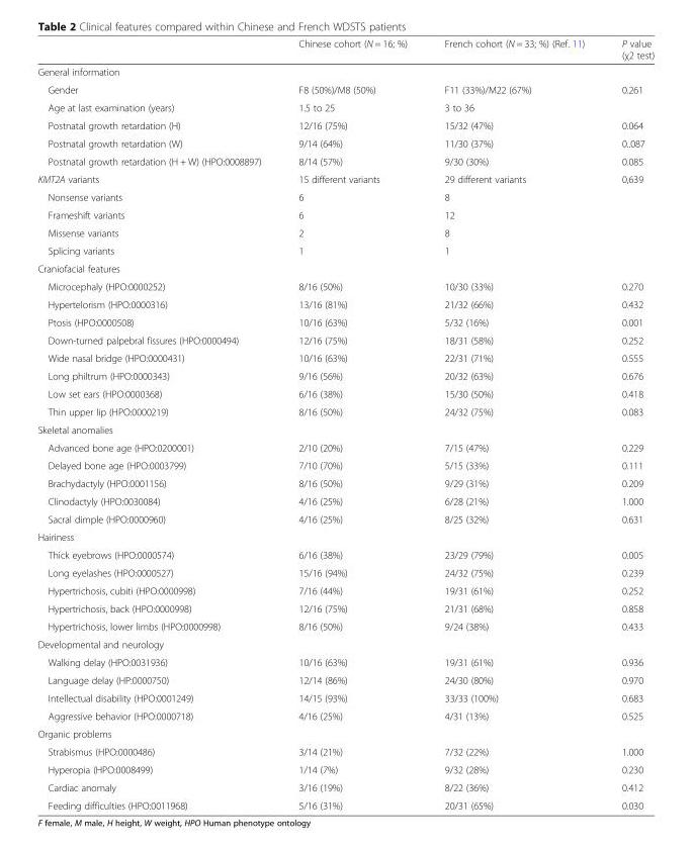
<table><thead><tr><td></td><td>Chinese cohort (N = 16; %)</td><td>French cohort (N = 33; %) (Ref. 11)</td><td>P value (χ2 test)</td></tr></thead><tbody><tr><td colspan="4">General information</td></tr><tr><td>Gender</td><td>F8 (50%)/M8 (50%)</td><td>F11 (33%)/M22 (67%)</td><td>0.261</td></tr><tr><td>Age at last examination (years)</td><td>1.5 to 25</td><td>3 to 36</td><td></td></tr><tr><td>Postnatal growth retardation (H)</td><td>12/16 (75%)</td><td>15/32 (47%)</td><td>0.064</td></tr><tr><td>Postnatal growth retardation (W)</td><td>9/14 (64%)</td><td>11/30 (37%)</td><td>0..087</td></tr><tr><td>Postnatal growth retardation (H + W) (HPO:0008897)</td><td>8/14 (57%)</td><td>9/30 (30%)</td><td>0.085</td></tr><tr><td>KMT2A variants</td><td>15 different variants</td><td>29 different variants</td><td>0,639</td></tr><tr><td>Nonsense variants</td><td>6</td><td>8</td><td></td></tr><tr><td>Frameshift variants</td><td>6</td><td>12</td><td></td></tr><tr><td>Missense variants</td><td>2</td><td>8</td><td></td></tr><tr><td>Splicing variants</td><td>1</td><td>1</td><td></td></tr><tr><td colspan="4">Craniofacial features</td></tr><tr><td>Microcephaly (HPO:0000252)</td><td>8/16 (50%)</td><td>10/30 (33%)</td><td>0.270</td></tr><tr><td>Hypertelorism (HPO:0000316)</td><td>13/16 (81%)</td><td>21/32 (66%)</td><td>0.432</td></tr><tr><td>Ptosis (HPO:0000508)</td><td>10/16 (63%)</td><td>5/32 (16%)</td><td>0.001</td></tr><tr><td>Down-turned palpebral fissures (HPO:0000494)</td><td>12/16 (75%)</td><td>18/31 (58%)</td><td>0.252</td></tr><tr><td>Wide nasal bridge (HPO:0000431)</td><td>10/16 (63%)</td><td>22/31 (71%)</td><td>0.555</td></tr><tr><td>Long philtrum (HPO:0000343)</td><td>9/16 (56%)</td><td>20/32 (63%)</td><td>0.676</td></tr><tr><td>Low set ears (HPO:0000368)</td><td>6/16 (38%)</td><td>15/30 (50%)</td><td>0.418</td></tr><tr><td>Thin upper lip (HPO:0000219)</td><td>8/16 (50%)</td><td>24/32 (75%)</td><td>0.083</td></tr><tr><td colspan="4">Skeletal anomalies</td></tr><tr><td>Advanced bone age (HPO:0200001)</td><td>2/10 (20%)</td><td>7/15 (47%)</td><td>0.229</td></tr><tr><td>Delayed bone age (HPO:0003799)</td><td>7/10 (70%)</td><td>5/15 (33%)</td><td>0.111</td></tr><tr><td>Brachydactyly (HPO:0001156)</td><td>8/16 (50%)</td><td>9/29 (31%)</td><td>0.209</td></tr><tr><td>Clinodactyly (HPO:0030084)</td><td>4/16 (25%)</td><td>6/28 (21%)</td><td>1.000</td></tr><tr><td>Sacral dimple (HPO:0000960)</td><td>4/16 (25%)</td><td>8/25 (32%)</td><td>0.631</td></tr><tr><td colspan="4">Hairiness</td></tr><tr><td>Thick eyebrows (HPO:0000574)</td><td>6/16 (38%)</td><td>23/29 (79%)</td><td>0.005</td></tr><tr><td>Long eyelashes (HPO:0000527)</td><td>15/16 (94%)</td><td>24/32 (75%)</td><td>0.239</td></tr><tr><td>Hypertrichosis, cubiti (HPO:0000998)</td><td>7/16 (44%)</td><td>19/31 (61%)</td><td>0.252</td></tr><tr><td>Hypertrichosis, back (HPO:0000998)</td><td>12/16 (75%)</td><td>21/31 (68%)</td><td>0.858</td></tr><tr><td>Hypertrichosis, lower limbs (HPO:0000998)</td><td>8/16 (50%)</td><td>9/24 (38%)</td><td>0.433</td></tr><tr><td colspan="4">Developmental and neurology</td></tr><tr><td>Walking delay (HPO:0031936)</td><td>10/16 (63%)</td><td>19/31 (61%)</td><td>0.936</td></tr><tr><td>Language delay (HP:0000750)</td><td>12/14 (86%)</td><td>24/30 (80%)</td><td>0.970</td></tr><tr><td>Intellectual disability (HPO:0001249)</td><td>14/15 (93%)</td><td>33/33 (100%)</td><td>0.683</td></tr><tr><td>Aggressive behavior (HPO:0000718)</td><td>4/16 (25%)</td><td>4/31 (13%)</td><td>0.525</td></tr><tr><td colspan="4">Organic problems</td></tr><tr><td>Strabismus (HPO:0000486)</td><td>3/14 (21%)</td><td>7/32 (22%)</td><td>1.000</td></tr><tr><td>Hyperopia (HPO:0008499)</td><td>1/14 (7%)</td><td>9/32 (28%)</td><td>0.230</td></tr><tr><td>Cardiac anomaly</td><td>3/16 (19%)</td><td>8/22 (36%)</td><td>0.412</td></tr><tr><td>Feeding difficulties (HPO:0011968)</td><td>5/16 (31%)</td><td>20/31 (65%)</td><td>0.030</td></tr></tbody></table>